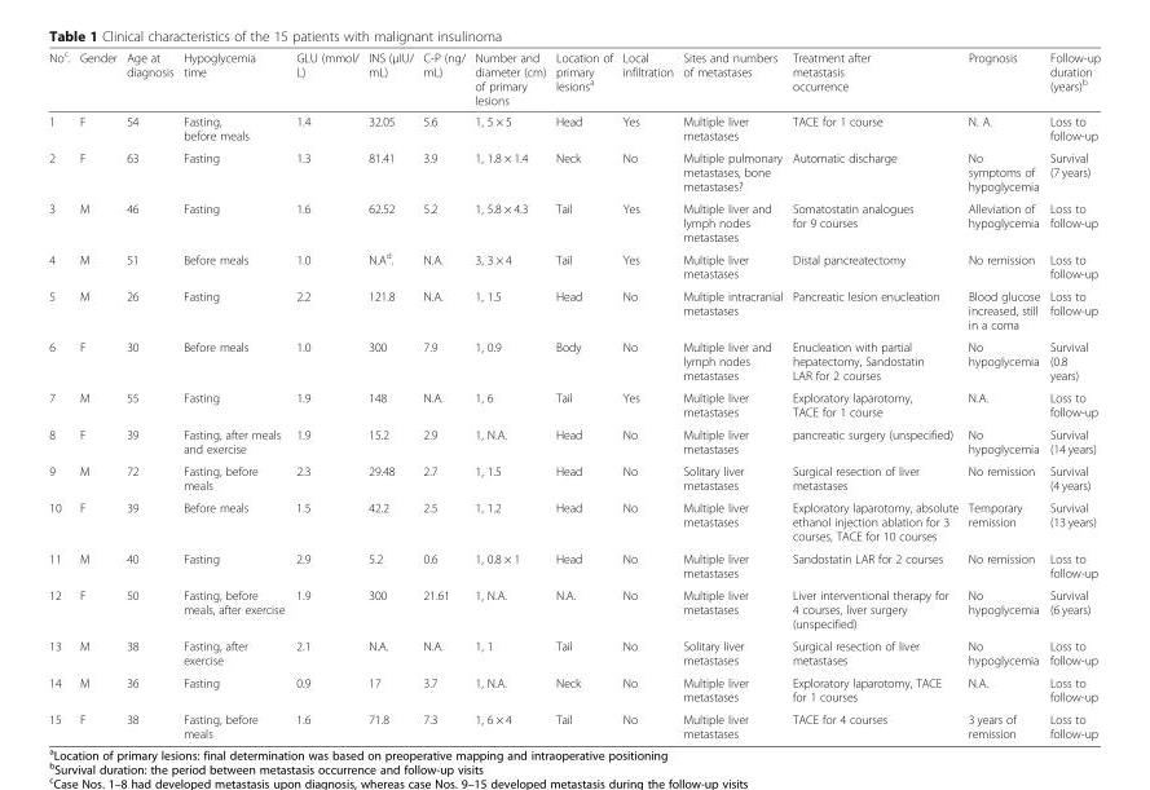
<table><thead><tr><td>No<sup>c</sup>.</td><td>Gender</td><td>Age at diagnosis</td><td>Hypoglycemia time</td><td>GLU (mmol/ L)</td><td>INS (μIU/ mL)</td><td>C-P (ng/ mL)</td><td>Number and diameter (cm) of primary lesions</td><td>Location of primary lesions<sup>a</sup></td><td>Local infiltration</td><td>Sites and numbers of metastases</td><td>Treatment after metastasis occurrence</td><td>Prognosis</td><td>Follow-up duration (years)<sup>b</sup></td></tr></thead><tbody><tr><td>1</td><td>F</td><td>54</td><td>Fasting, before meals</td><td>1.4</td><td>32.05</td><td>5.6</td><td>1, 5 × 5</td><td>Head</td><td>Yes</td><td>Multiple liver metastases</td><td>TACE for 1 course</td><td>N. A.</td><td>Loss to follow-up</td></tr><tr><td>2</td><td>F</td><td>63</td><td>Fasting</td><td>1.3</td><td>81.41</td><td>3.9</td><td>1, 1.8 × 1.4</td><td>Neck</td><td>No</td><td>Multiple pulmonary metastases, bone metastases?</td><td>Automatic discharge</td><td>No symptoms of hypoglycemia</td><td>Survival (7 years)</td></tr><tr><td>3</td><td>M</td><td>46</td><td>Fasting</td><td>1.6</td><td>62.52</td><td>5.2</td><td>1, 5.8 × 4.3</td><td>Tail</td><td>Yes</td><td>Multiple liver and lymph nodes metastases</td><td>Somatostatin analogues for 9 courses</td><td>Alleviation of hypoglycemia</td><td>Loss to follow-up</td></tr><tr><td>4</td><td>M</td><td>51</td><td>Before meals</td><td>1.0</td><td>N.A<sup>d</sup>.</td><td>N.A.</td><td>3, 3 × 4</td><td>Tail</td><td>Yes</td><td>Multiple liver metastases</td><td>Distal pancreatectomy</td><td>No remission</td><td>Loss to follow-up</td></tr><tr><td>5</td><td>M</td><td>26</td><td>Fasting</td><td>2.2</td><td>121.8</td><td>N.A.</td><td>1, 1.5</td><td>Head</td><td>No</td><td>Multiple intracranial metastases</td><td>Pancreatic lesion enucleation</td><td>Blood glucose increased, still in a coma</td><td>Loss to follow-up</td></tr><tr><td>6</td><td>F</td><td>30</td><td>Before meals</td><td>1.0</td><td>300</td><td>7.9</td><td>1, 0.9</td><td>Body</td><td>No</td><td>Multiple liver and lymph nodes metastases</td><td>Enucleation with partial hepatectomy, Sandostatin LAR for 2 courses</td><td>No hypoglycemia</td><td>Survival (0.8 years)</td></tr><tr><td>7</td><td>M</td><td>55</td><td>Fasting</td><td>1.9</td><td>148</td><td>N.A.</td><td>1, 6</td><td>Tail</td><td>Yes</td><td>Multiple liver metastases</td><td>Exploratory laparotomy, TACE for 1 course</td><td>N.A.</td><td>Loss to follow-up</td></tr><tr><td>8</td><td>F</td><td>39</td><td>Fasting, after meals and exercise</td><td>1.9</td><td>15.2</td><td>2.9</td><td>1, N.A.</td><td>Head</td><td>No</td><td>Multiple liver metastases</td><td>pancreatic surgery (unspecified)</td><td>No hypoglycemia</td><td>Survival (14 years)</td></tr><tr><td>9</td><td>M</td><td>72</td><td>Fasting, before meals</td><td>2.3</td><td>29.48</td><td>2.7</td><td>1, 1.5</td><td>Head</td><td>No</td><td>Solitary liver metastases</td><td>Surgical resection of liver metastases</td><td>No remission</td><td>Survival (4 years)</td></tr><tr><td>10</td><td>F</td><td>39</td><td>Before meals</td><td>1.5</td><td>42.2</td><td>2.5</td><td>1, 1.2</td><td>Head</td><td>No</td><td>Multiple liver metastases</td><td>Exploratory laparotomy, absolute ethanol injection ablation for 3 courses, TACE for 10 courses</td><td>Temporary remission</td><td>Survival (13 years)</td></tr><tr><td>11</td><td>M</td><td>40</td><td>Fasting</td><td>2.9</td><td>5.2</td><td>0.6</td><td>1, 0.8 × 1</td><td>Head</td><td>No</td><td>Multiple liver metastases</td><td>Sandostatin LAR for 2 courses</td><td>No remission</td><td>Loss to follow-up</td></tr><tr><td>12</td><td>F</td><td>50</td><td>Fasting, before meals, after exercise</td><td>1.9</td><td>300</td><td>21.61</td><td>1, N.A.</td><td>N.A.</td><td>No</td><td>Multiple liver metastases</td><td>Liver interventional therapy for 4 courses, liver surgery (unspecified)</td><td>No hypoglycemia</td><td>Survival (6 years)</td></tr><tr><td>13</td><td>M</td><td>38</td><td>Fasting, after exercise</td><td>2.1</td><td>N.A.</td><td>N.A.</td><td>1, 1</td><td>Tail</td><td>No</td><td>Solitary liver metastases</td><td>Surgical resection of liver metastases</td><td>No hypoglycemia</td><td>Loss to follow-up</td></tr><tr><td>14</td><td>M</td><td>36</td><td>Fasting</td><td>0.9</td><td>17</td><td>3.7</td><td>1, N.A.</td><td>Neck</td><td>No</td><td>Multiple liver metastases</td><td>Exploratory laparotomy, TACE for 1 courses</td><td>N.A.</td><td>Loss to follow-up</td></tr><tr><td>15</td><td>F</td><td>38</td><td>Fasting, before meals</td><td>1.6</td><td>71.8</td><td>7.3</td><td>1, 6 × 4</td><td>Tail</td><td>No</td><td>Multiple liver metastases</td><td>TACE for 4 courses</td><td>3 years of remission</td><td>Loss to follow-up</td></tr></tbody></table>